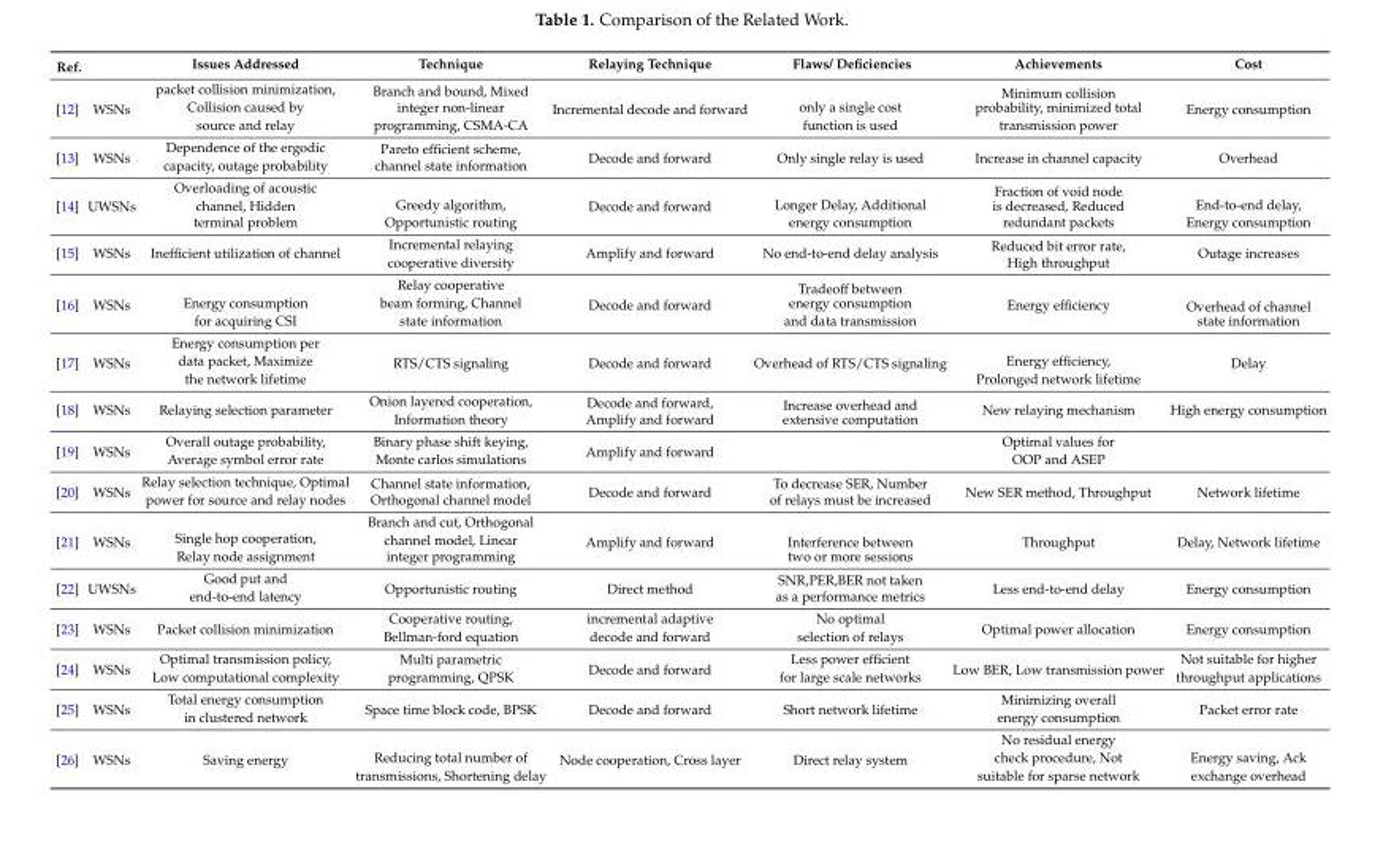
<table><thead><tr><td>Ref.</td><td></td><td>Issues Addressed</td><td>Technique</td><td>Relaying Technique</td><td>Flaws/ Deficiencies</td><td>Achievements</td><td>Cost</td></tr></thead><tbody><tr><td>[12]</td><td>WSNs</td><td>packet collision minimization, Collision caused by source and relay</td><td>Branch and bound, Mixed integer non-linear programming, CSMA-CA</td><td>Incremental decode and forward</td><td>only a single cost function is used</td><td>Minimum collision probability, minimized total transmission power</td><td>Energy consumption</td></tr><tr><td>[13]</td><td>WSNs</td><td>Dependence of the ergodic capacity, outage probability</td><td>Pareto efficient scheme, channel state information</td><td>Decode and forward</td><td>Only single relay is used</td><td>Increase in channel capacity</td><td>Overhead</td></tr><tr><td>[14]</td><td>UWSNs</td><td>Overloading of acoustic channel, Hidden terminal problem</td><td>Greedy algorithm, Opportunistic routing</td><td>Decode and forward</td><td>Longer Delay, Additional energy consumption</td><td>Fraction of void node is decreased, Reduced redundant packets</td><td>End-to-end delay, Energy consumption</td></tr><tr><td>[15]</td><td>WSNs</td><td>Inefficient utilization of channel</td><td>Incremental relaying cooperative diversity</td><td>Amplify and forward</td><td>No end-to-end delay analysis</td><td>Reduced bit error rate, High throughput</td><td>Outage increases</td></tr><tr><td>[16]</td><td>WSNs</td><td>Energy consumption for acquiring CSI</td><td>Relay cooperative beam forming, Channel state information</td><td>Decode and forward</td><td>Tradeoff between energy consumption and data transmission</td><td>Energy efficiency</td><td>Overhead of channel state information</td></tr><tr><td>[17]</td><td>WSNs</td><td>Energy consumption per data packet, Maximize the network lifetime</td><td>RTS/CTS signaling</td><td>Decode and forward</td><td>Overhead of RTS/CTS signaling</td><td>Energy efficiency, Prolonged network lifetime</td><td>Delay</td></tr><tr><td>[18]</td><td>WSNs</td><td>Relaying selection parameter</td><td>Onion layered cooperation, Information theory</td><td>Decode and forward, Amplify and forward</td><td>Increase overhead and extensive computation</td><td>New relaying mechanism</td><td>High energy consumption</td></tr><tr><td>[19]</td><td>WSNs</td><td>Overall outage probability, Average symbol error rate</td><td>Binary phase shift keying, Monte carlos simulations</td><td>Amplify and forward</td><td></td><td>Optimal values for OOP and ASEP</td><td></td></tr><tr><td>[20]</td><td>WSNs</td><td>Relay selection technique, Optimal power for source and relay nodes</td><td>Channel state information, Orthogonal channel model</td><td>Decode and forward</td><td>To decrease SER, Number of relays must be increased</td><td>New SER method, Throughput</td><td>Network lifetime</td></tr><tr><td>[21]</td><td>WSNs</td><td>Single hop cooperation, Relay node assignment</td><td>Branch and cut, Orthogonal channel model, Linear integer programming</td><td>Amplify and forward</td><td>Interference between two or more sessions</td><td>Throughput</td><td>Delay, Network lifetime</td></tr><tr><td>[22]</td><td>UWSNs</td><td>Good put and end-to-end latency</td><td>Opportunistic routing</td><td>Direct method</td><td>SNR,PER,BER not taken as a performance metrics</td><td>Less end-to-end delay</td><td>Energy consumption</td></tr><tr><td>[23]</td><td>WSNs</td><td>Packet collision minimization</td><td>Cooperative routing, Bellman-ford equation</td><td>incremental adaptive decode and forward</td><td>No optimal selection of relays</td><td>Optimal power allocation</td><td>Energy consumption</td></tr><tr><td>[24]</td><td>WSNs</td><td>Optimal transmission policy, Low computational complexity</td><td>Multi parametric programming, QPSK</td><td>Decode and forward</td><td>Less power efficient for large scale networks</td><td>Low BER, Low transmission power</td><td>Not suitable for higher throughput applications</td></tr><tr><td>[25]</td><td>WSNs</td><td>Total energy consumption in clustered network</td><td>Space time block code, BPSK</td><td>Decode and forward</td><td>Short network lifetime</td><td>Minimizing overall energy consumption</td><td>Packet error rate</td></tr><tr><td>[26]</td><td>WSNs</td><td>Saving energy</td><td>Reducing total number of transmissions, Shortening delay</td><td>Node cooperation, Cross layer</td><td>Direct relay system</td><td>No residual energy check procedure, Not suitable for sparse network</td><td>Energy saving, Ack exchange overhead</td></tr></tbody></table>